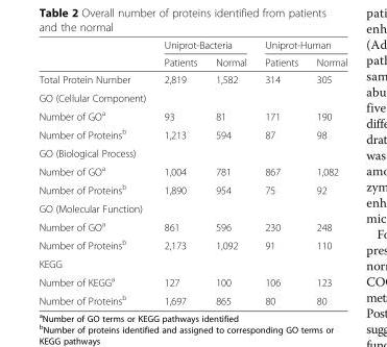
<table><thead><tr><td rowspan="2"></td><td colspan="2">Uniprot-Bacteria</td><td colspan="2">Uniprot-Human</td></tr><tr><td>Patients</td><td>Normal</td><td>Patients</td><td>Normal</td></tr></thead><tbody><tr><td>Total Protein Number</td><td>2,819</td><td>1,582</td><td>314</td><td>305</td></tr><tr><td colspan="5">GO (Cellular Component)</td></tr><tr><td>Number of GO<sup>a</sup></td><td>93</td><td>81</td><td>171</td><td>190</td></tr><tr><td>Number of Proteins<sup>b</sup></td><td>1,213</td><td>594</td><td>87</td><td>98</td></tr><tr><td colspan="5">GO (Biological Process)</td></tr><tr><td>Number of GO<sup>a</sup></td><td>1,004</td><td>781</td><td>867</td><td>1,082</td></tr><tr><td>Number of Proteins<sup>b</sup></td><td>1,890</td><td>954</td><td>75</td><td>92</td></tr><tr><td colspan="5">GO (Molecular Function)</td></tr><tr><td>Number of GO<sup>a</sup></td><td>861</td><td>596</td><td>230</td><td>248</td></tr><tr><td>Number of Proteins<sup>b</sup></td><td>2,173</td><td>1,092</td><td>91</td><td>110</td></tr><tr><td colspan="5">KEGG</td></tr><tr><td>Number of KEGG<sup>a</sup></td><td>127</td><td>100</td><td>106</td><td>123</td></tr><tr><td>Number of Proteins<sup>b</sup></td><td>1,697</td><td>865</td><td>80</td><td>80</td></tr></tbody></table>